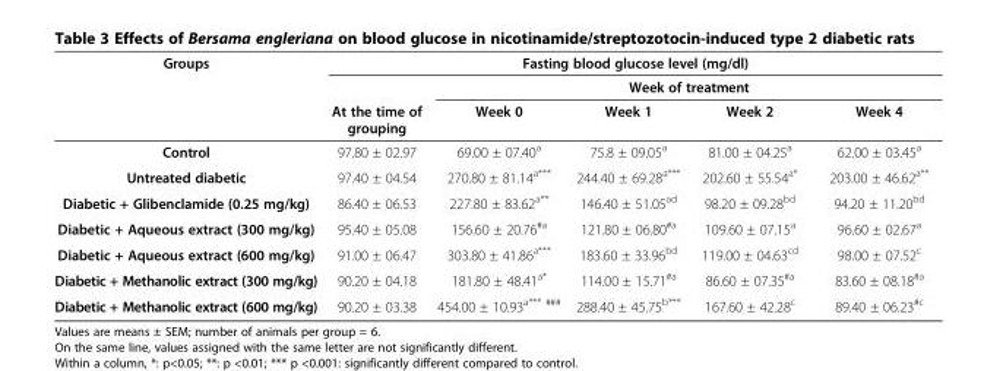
<table><thead><tr><td rowspan="3">Groups</td><td colspan="5">Fasting blood glucose level (mg/dl)</td></tr><tr><td rowspan="2">At the time of grouping</td><td colspan="4">Week of treatment</td></tr><tr><td>Week 0</td><td>Week 1</td><td>Week 2</td><td>Week 4</td></tr></thead><tbody><tr><td>Control</td><td>97.80 ± 02.97</td><td>69.00 ± 07.40<sup>a</sup></td><td>75.8 ± 09.05<sup>a</sup></td><td>81.00 ± 04.25<sup>a</sup></td><td>62.00 ± 03.45<sup>a</sup></td></tr><tr><td>Untreated diabetic</td><td>97.40 ± 04.54</td><td>270.80 ± 81.14<sup>a***</sup></td><td>244.40 ± 69.28<sup>a***</sup></td><td>202.60 ± 55.54<sup>a*</sup></td><td>203.00 ± 46.62<sup>a**</sup></td></tr><tr><td>Diabetic + Glibenclamide (0.25 mg/kg)</td><td>86.40 ± 06.53</td><td>227.80 ± 83.62<sup>a**</sup></td><td>146.40 ± 51.05<sup>ad</sup></td><td>98.20 ± 09.28<sup>bd</sup></td><td>94.20 ± 11.20<sup>bd</sup></td></tr><tr><td>Diabetic + Aqueous extract (300 mg/kg)</td><td>95.40 ± 05.08</td><td>156.60 ± 20.76<sup>#a</sup></td><td>121.80 ± 06.80<sup>#a</sup></td><td>109.60 ± 07.15<sup>a</sup></td><td>96.60 ± 02.67<sup>a</sup></td></tr><tr><td>Diabetic + Aqueous extract (600 mg/kg)</td><td>91.00 ± 06.47</td><td>303.80 ± 41.86<sup>a***</sup></td><td>183.60 ± 33.96<sup>bd</sup></td><td>119.00 ± 04.63<sup>cd</sup></td><td>98.00 ± 07.52<sup>c</sup></td></tr><tr><td>Diabetic + Methanolic extract (300 mg/kg)</td><td>90.20 ± 04.18</td><td>181.80 ± 48.41<sup>a*</sup></td><td>114.00 ± 15.71<sup>#a</sup></td><td>86.60 ± 07.35<sup>#a</sup></td><td>83.60 ± 08.18<sup>#a</sup></td></tr><tr><td>Diabetic + Methanolic extract (600 mg/kg)</td><td>90.20 ± 03.38</td><td>454.00 ± 10.93<sup>a*** ###</sup></td><td>288.40 ± 45.75<sup>b***</sup></td><td>167.60 ± 42.28<sup>c</sup></td><td>89.40 ± 06.23<sup>#c</sup></td></tr></tbody></table>